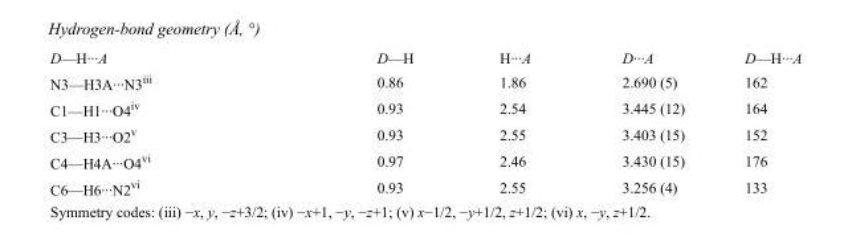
<table><tbody><tr><td>D—H···A</td><td>D—H</td><td>H···A</td><td>D···A</td><td>D—H···A</td></tr><tr><td>N3—H3A···N3<sup>iii</sup></td><td>0.86</td><td>1.86</td><td>2.690 (5)</td><td>162</td></tr><tr><td>C1—H1···O4<sup>iv</sup></td><td>0.93</td><td>2.54</td><td>3.445 (12)</td><td>164</td></tr><tr><td>C3—H3···O2<sup>v</sup></td><td>0.93</td><td>2.55</td><td>3.403 (15)</td><td>152</td></tr><tr><td>C4—H4A···O4<sup>vi</sup></td><td>0.97</td><td>2.46</td><td>3.430 (15)</td><td>176</td></tr><tr><td>C6—H6···N2<sup>vi</sup></td><td>0.93</td><td>2.55</td><td>3.256 (4)</td><td>133</td></tr></tbody></table>